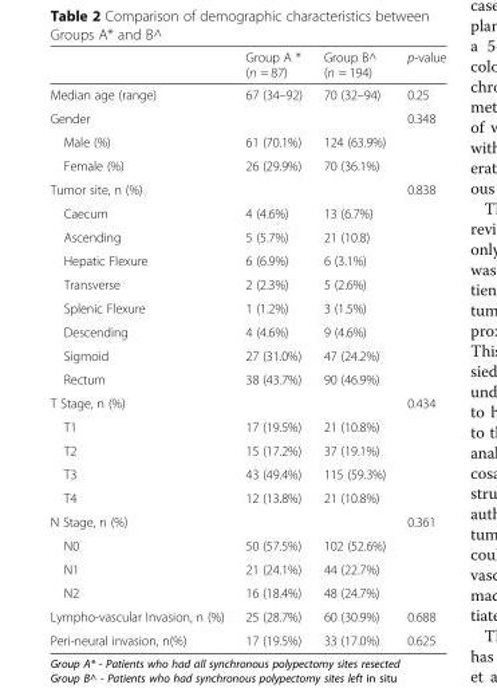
<table><thead><tr><td></td><td>Group A * (n = 87)</td><td>Group B^ (n = 194)</td><td>p-value</td></tr></thead><tbody><tr><td>Median age (range)</td><td>67 (34–92)</td><td>70 (32–94)</td><td>0.25</td></tr><tr><td colspan="3">Gender</td><td>0.348</td></tr><tr><td>Male (%)</td><td>61 (70.1%)</td><td>124 (63.9%)</td><td rowspan="2"></td></tr><tr><td>Female (%)</td><td>26 (29.9%)</td><td>70 (36.1%)</td></tr><tr><td colspan="3">Tumor site, n (%)</td><td>0.838</td></tr><tr><td>Caecum</td><td>4 (4.6%)</td><td>13 (6.7%)</td><td></td></tr><tr><td>Ascending</td><td>5 (5.7%)</td><td>21 (10.8)</td><td></td></tr><tr><td>Hepatic Flexure</td><td>6 (6.9%)</td><td>6 (3.1%)</td><td></td></tr><tr><td>Transverse</td><td>2 (2.3%)</td><td>5 (2.6%)</td><td></td></tr><tr><td>Splenic Flexure</td><td>1 (1.2%)</td><td>3 (1.5%)</td><td></td></tr><tr><td>Descending</td><td>4 (4.6%)</td><td>9 (4.6%)</td><td></td></tr><tr><td>Sigmoid</td><td>27 (31.0%)</td><td>47 (24.2%)</td><td></td></tr><tr><td>Rectum</td><td>38 (43.7%)</td><td>90 (46.9%)</td><td></td></tr><tr><td colspan="3">T Stage, n (%)</td><td>0.434</td></tr><tr><td>T1</td><td>17 (19.5%)</td><td>21 (10.8%)</td><td></td></tr><tr><td>T2</td><td>15 (17.2%)</td><td>37 (19.1%)</td><td></td></tr><tr><td>T3</td><td>43 (49.4%)</td><td>115 (59.3%)</td><td></td></tr><tr><td>T4</td><td>12 (13.8%)</td><td>21 (10.8%)</td><td></td></tr><tr><td colspan="3">N Stage, n (%)</td><td>0.361</td></tr><tr><td>N0</td><td>50 (57.5%)</td><td>102 (52.6%)</td><td></td></tr><tr><td>N1</td><td>21 (24.1%)</td><td>44 (22.7%)</td><td></td></tr><tr><td>N2</td><td>16 (18.4%)</td><td>48 (24.7%)</td><td></td></tr><tr><td>Lympho-vascular Invasion, n (%)</td><td>25 (28.7%)</td><td>60 (30.9%)</td><td>0.688</td></tr><tr><td>Peri-neural invasion, n(%)</td><td>17 (19.5%)</td><td>33 (17.0%)</td><td>0.625</td></tr></tbody></table>